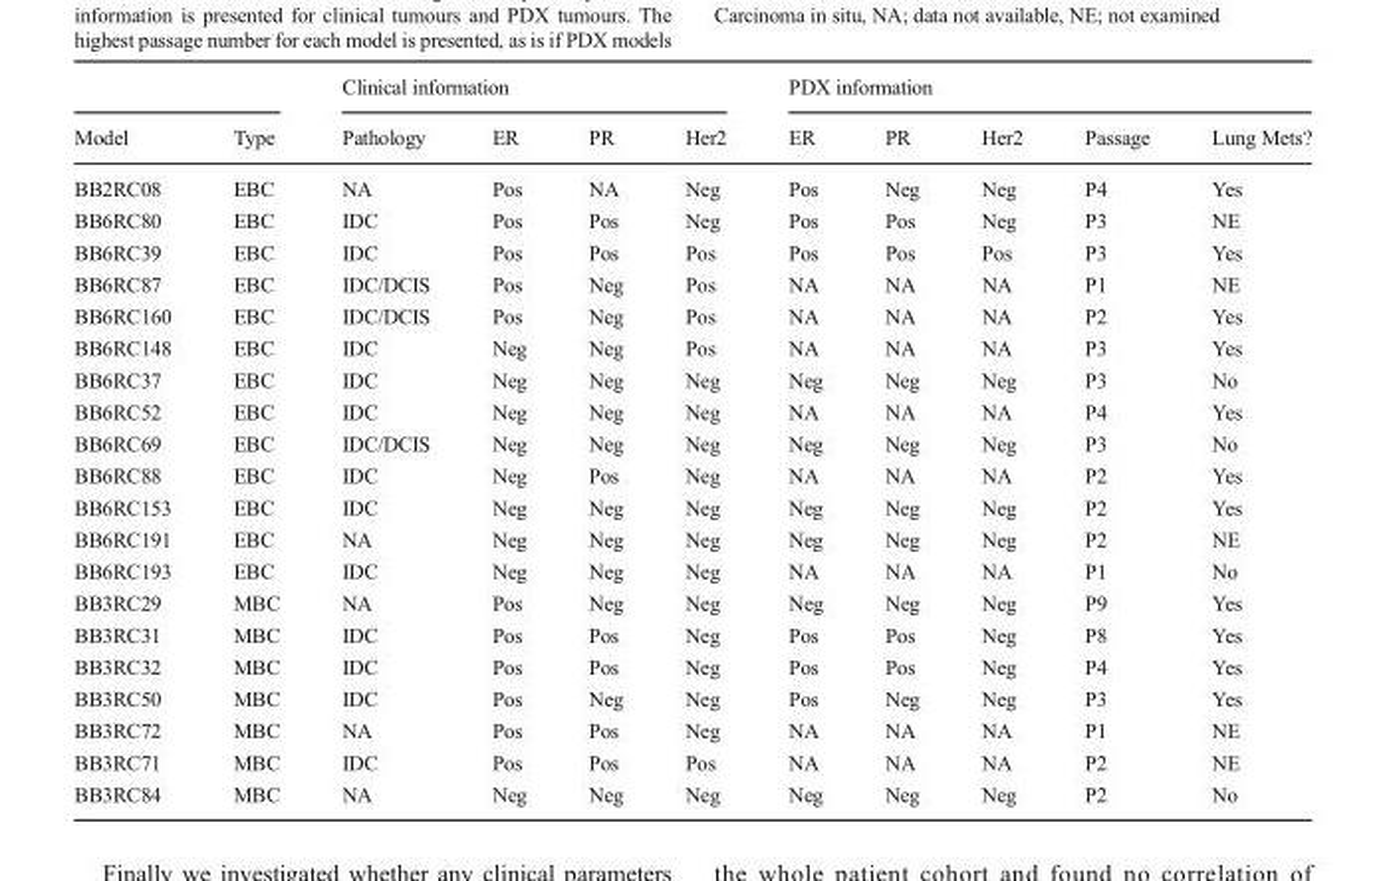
<table><thead><tr><td rowspan="2">Model</td><td rowspan="2">Type</td><td colspan="4">Clinical information</td><td colspan="5">PDX information</td></tr><tr><td>Pathology</td><td>ER</td><td>PR</td><td>Her2</td><td>ER</td><td>PR</td><td>Her2</td><td>Passage</td><td>Lung Mets?</td></tr></thead><tbody><tr><td>BB2RC08</td><td>EBC</td><td>NA</td><td>Pos</td><td>NA</td><td>Neg</td><td>Pos</td><td>Neg</td><td>Neg</td><td>P4</td><td>Yes</td></tr><tr><td>BB6RC80</td><td>EBC</td><td>IDC</td><td>Pos</td><td>Pos</td><td>Neg</td><td>Pos</td><td>Pos</td><td>Neg</td><td>P3</td><td>NE</td></tr><tr><td>BB6RC39</td><td>EBC</td><td>IDC</td><td>Pos</td><td>Pos</td><td>Pos</td><td>Pos</td><td>Pos</td><td>Pos</td><td>P3</td><td>Yes</td></tr><tr><td>BB6RC87</td><td>EBC</td><td>IDC/DCIS</td><td>Pos</td><td>Neg</td><td>Pos</td><td>NA</td><td>NA</td><td>NA</td><td>P1</td><td>NE</td></tr><tr><td>BB6RC160</td><td>EBC</td><td>IDC/DCIS</td><td>Pos</td><td>Neg</td><td>Pos</td><td>NA</td><td>NA</td><td>NA</td><td>P2</td><td>Yes</td></tr><tr><td>BB6RC148</td><td>EBC</td><td>IDC</td><td>Neg</td><td>Neg</td><td>Pos</td><td>NA</td><td>NA</td><td>NA</td><td>P3</td><td>Yes</td></tr><tr><td>BB6RC37</td><td>EBC</td><td>IDC</td><td>Neg</td><td>Neg</td><td>Neg</td><td>Neg</td><td>Neg</td><td>Neg</td><td>P3</td><td>No</td></tr><tr><td>BB6RC52</td><td>EBC</td><td>IDC</td><td>Neg</td><td>Neg</td><td>Neg</td><td>NA</td><td>NA</td><td>NA</td><td>P4</td><td>Yes</td></tr><tr><td>BB6RC69</td><td>EBC</td><td>IDC/DCIS</td><td>Neg</td><td>Neg</td><td>Neg</td><td>Neg</td><td>Neg</td><td>Neg</td><td>P3</td><td>No</td></tr><tr><td>BB6RC88</td><td>EBC</td><td>IDC</td><td>Neg</td><td>Pos</td><td>Neg</td><td>NA</td><td>NA</td><td>NA</td><td>P2</td><td>Yes</td></tr><tr><td>BB6RC153</td><td>EBC</td><td>IDC</td><td>Neg</td><td>Neg</td><td>Neg</td><td>Neg</td><td>Neg</td><td>Neg</td><td>P2</td><td>Yes</td></tr><tr><td>BB6RC191</td><td>EBC</td><td>NA</td><td>Neg</td><td>Neg</td><td>Neg</td><td>Neg</td><td>Neg</td><td>Neg</td><td>P2</td><td>NE</td></tr><tr><td>BB6RC193</td><td>EBC</td><td>IDC</td><td>Neg</td><td>Neg</td><td>Neg</td><td>NA</td><td>NA</td><td>NA</td><td>P1</td><td>No</td></tr><tr><td>BB3RC29</td><td>MBC</td><td>NA</td><td>Pos</td><td>Neg</td><td>Neg</td><td>Neg</td><td>Neg</td><td>Neg</td><td>P9</td><td>Yes</td></tr><tr><td>BB3RC31</td><td>MBC</td><td>IDC</td><td>Pos</td><td>Pos</td><td>Neg</td><td>Pos</td><td>Pos</td><td>Neg</td><td>P8</td><td>Yes</td></tr><tr><td>BB3RC32</td><td>MBC</td><td>IDC</td><td>Pos</td><td>Pos</td><td>Neg</td><td>Pos</td><td>Pos</td><td>Neg</td><td>P4</td><td>Yes</td></tr><tr><td>BB3RC50</td><td>MBC</td><td>IDC</td><td>Pos</td><td>Neg</td><td>Neg</td><td>Pos</td><td>Neg</td><td>Neg</td><td>P3</td><td>Yes</td></tr><tr><td>BB3RC72</td><td>MBC</td><td>NA</td><td>Pos</td><td>Pos</td><td>Neg</td><td>NA</td><td>NA</td><td>NA</td><td>P1</td><td>NE</td></tr><tr><td>BB3RC71</td><td>MBC</td><td>IDC</td><td>Pos</td><td>Pos</td><td>Pos</td><td>NA</td><td>NA</td><td>NA</td><td>P2</td><td>NE</td></tr><tr><td>BB3RC84</td><td>MBC</td><td>NA</td><td>Neg</td><td>Neg</td><td>Neg</td><td>Neg</td><td>Neg</td><td>Neg</td><td>P2</td><td>No</td></tr></tbody></table>